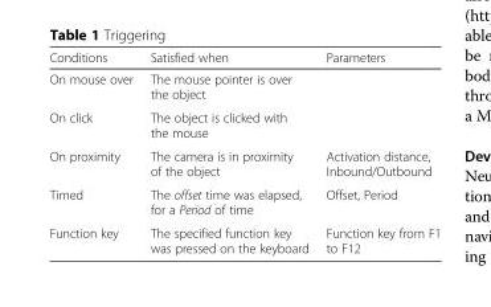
<table><thead><tr><td>Conditions</td><td>Satisfied when</td><td>Parameters</td></tr></thead><tbody><tr><td>On mouse over</td><td>The mouse pointer is over the object</td><td></td></tr><tr><td>On click</td><td>The object is clicked with the mouse</td><td></td></tr><tr><td>On proximity</td><td>The camera is in proximity of the object</td><td>Activation distance, Inbound/Outbound</td></tr><tr><td>Timed</td><td>The offset time was elapsed, for a Period of time</td><td>Offset, Period</td></tr><tr><td>Function key</td><td>The specified function key was pressed on the keyboard</td><td>Function key from F1 to F12</td></tr></tbody></table>